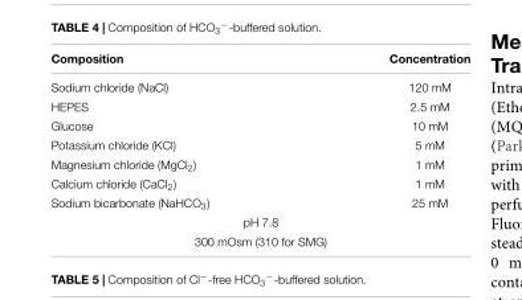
<table><thead><tr><td>Composition</td><td>Concentration</td></tr></thead><tbody><tr><td>Sodium chloride (NaCl)</td><td>120 mM</td></tr><tr><td>HEPES</td><td>2.5 mM</td></tr><tr><td>Glucose</td><td>10 mM</td></tr><tr><td>Potassium chloride (KCl)</td><td>5 mM</td></tr><tr><td>Magnesium chloride (MgCl<sub>2</sub>)</td><td>1 mM</td></tr><tr><td>Calcium chloride (CaCl<sub>2</sub>)</td><td>1 mM</td></tr><tr><td>Sodium bicarbonate (NaHCO<sub>3</sub>)</td><td>25 mM</td></tr><tr><td colspan="2">pH 7.8</td></tr><tr><td colspan="2">300 mOsm (310 for SMG)</td></tr></tbody></table>